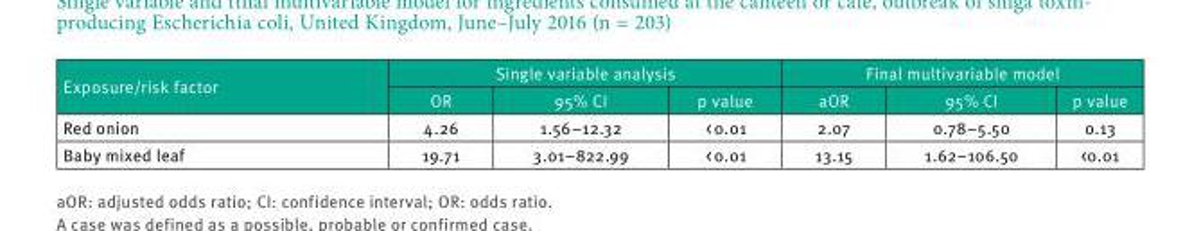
<table><thead><tr><td rowspan="2">Exposure/risk factor</td><td colspan="3">Single variable analysis</td><td colspan="3">Final multivariable model</td></tr><tr><td>OR</td><td>95% CI</td><td>p value</td><td>aOR</td><td>95% CI</td><td>p value</td></tr></thead><tbody><tr><td>Red onion</td><td>4.26</td><td>1.56–12.32</td><td>&lt; 0.01</td><td>2.07</td><td>0.78–5.50</td><td>0.13</td></tr><tr><td>Baby mixed leaf</td><td>19.71</td><td>3.01–822.99</td><td>&lt; 0.01</td><td>13.15</td><td>1.62–106.50</td><td>&lt;0.01</td></tr></tbody></table>